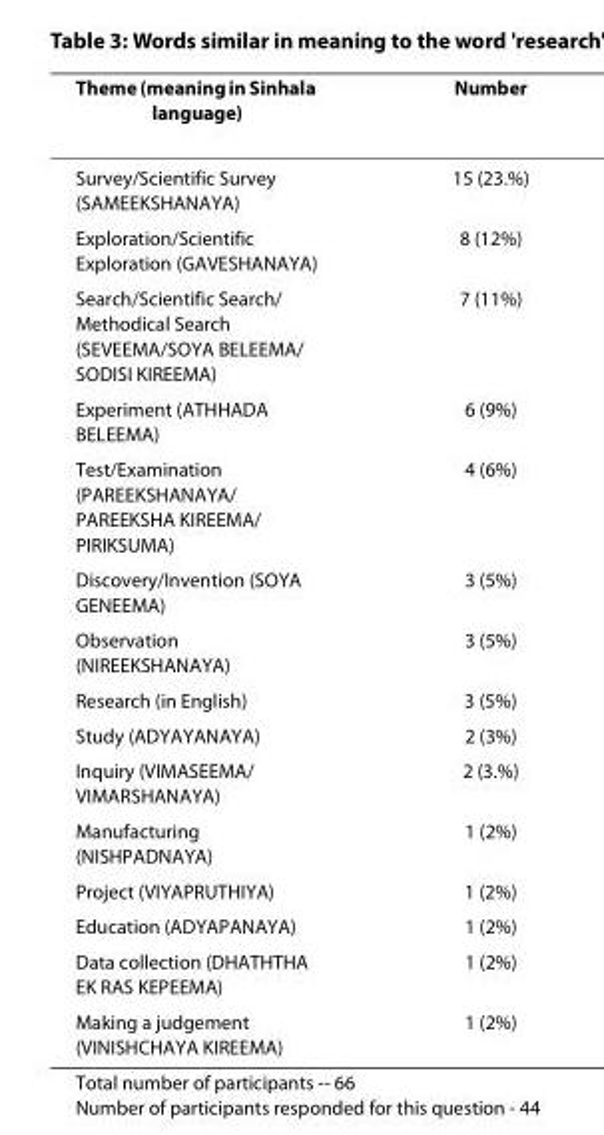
<table><thead><tr><td>Theme (meaning in Sinhala language)</td><td>Number</td></tr></thead><tbody><tr><td>Survey/Scientific Survey (SAMEEKSHANAYA)</td><td>15 (23.%)</td></tr><tr><td>Exploration/Scientific Exploration (GAVESHANAYA)</td><td>8 (12%)</td></tr><tr><td>Search/Scientific Search/ Methodical Search (SEVEEMA/SOYA BELEEMA/ SODISI KIREEMA)</td><td>7 (11%)</td></tr><tr><td>Experiment (ATHHADA BELEEMA)</td><td>6 (9%)</td></tr><tr><td>Test/Examination (PAREEKSHANAYA/ PAREEKSHA KIREEMA/ PIRIKSUMA)</td><td>4 (6%)</td></tr><tr><td>Discovery/Invention (SOYA GENEEMA)</td><td>3 (5%)</td></tr><tr><td>Observation (NIREEKSHANAYA)</td><td>3 (5%)</td></tr><tr><td>Research (in English)</td><td>3 (5%)</td></tr><tr><td>Study (ADYAYANAYA)</td><td>2 (3%)</td></tr><tr><td>Inquiry (VIMASEEMA/ VIMARSHANAYA)</td><td>2 (3.%)</td></tr><tr><td>Manufacturing (NISHPADNAYA)</td><td>1 (2%)</td></tr><tr><td>Project (VIYAPRUTHIYA)</td><td>1 (2%)</td></tr><tr><td>Education (ADYAPANAYA)</td><td>1 (2%)</td></tr><tr><td>Data collection (DHATHTHA EK RAS KEPEEMA)</td><td>1 (2%)</td></tr><tr><td>Making a judgement (VINISHCHAYA KIREEMA)</td><td>1 (2%)</td></tr></tbody></table>